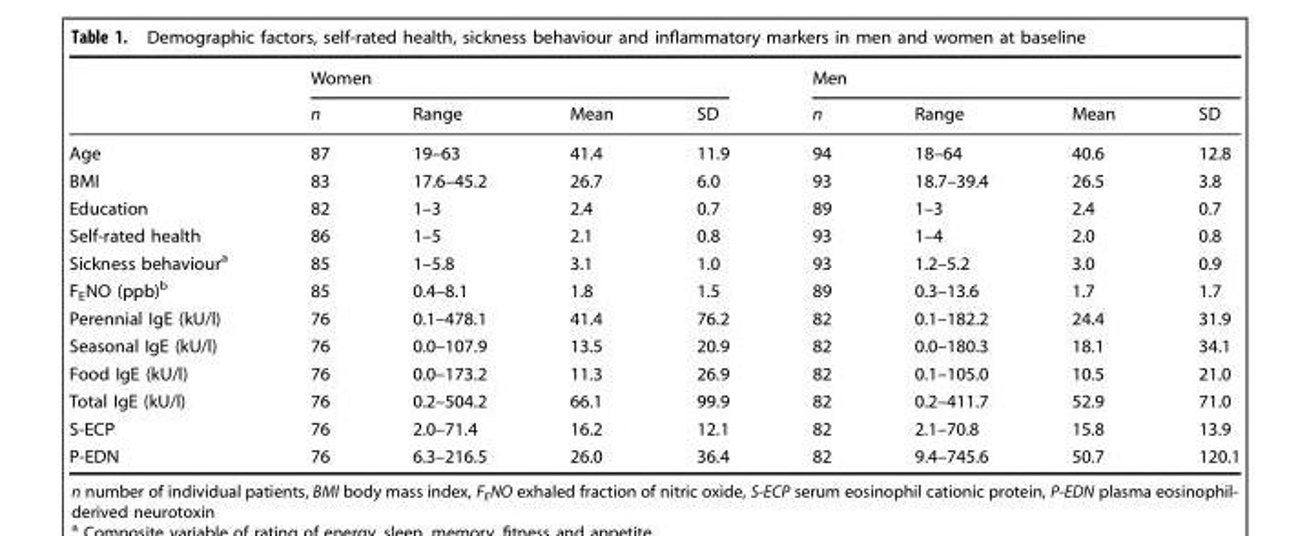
<table><thead><tr><td rowspan="2"></td><td colspan="4">Women</td><td colspan="4">Men</td></tr><tr><td>n</td><td>Range</td><td>Mean</td><td>SD</td><td>n</td><td>Range</td><td>Mean</td><td>SD</td></tr></thead><tbody><tr><td>Age</td><td>87</td><td>19–63</td><td>41.4</td><td>11.9</td><td>94</td><td>18–64</td><td>40.6</td><td>12.8</td></tr><tr><td>BMI</td><td>83</td><td>17.6–45.2</td><td>26.7</td><td>6.0</td><td>93</td><td>18.7–39.4</td><td>26.5</td><td>3.8</td></tr><tr><td>Education</td><td>82</td><td>1–3</td><td>2.4</td><td>0.7</td><td>89</td><td>1–3</td><td>2.4</td><td>0.7</td></tr><tr><td>Self-rated health</td><td>86</td><td>1–5</td><td>2.1</td><td>0.8</td><td>93</td><td>1–4</td><td>2.0</td><td>0.8</td></tr><tr><td>Sickness behaviour<sup>a</sup></td><td>85</td><td>1–5.8</td><td>3.1</td><td>1.0</td><td>93</td><td>1.2–5.2</td><td>3.0</td><td>0.9</td></tr><tr><td>F<sub>E</sub>NO (ppb)<sup>b</sup></td><td>85</td><td>0.4–8.1</td><td>1.8</td><td>1.5</td><td>89</td><td>0.3–13.6</td><td>1.7</td><td>1.7</td></tr><tr><td>Perennial IgE (kU/l)</td><td>76</td><td>0.1–478.1</td><td>41.4</td><td>76.2</td><td>82</td><td>0.1–182.2</td><td>24.4</td><td>31.9</td></tr><tr><td>Seasonal IgE (kU/l)</td><td>76</td><td>0.0–107.9</td><td>13.5</td><td>20.9</td><td>82</td><td>0.0–180.3</td><td>18.1</td><td>34.1</td></tr><tr><td>Food IgE (kU/l)</td><td>76</td><td>0.0–173.2</td><td>11.3</td><td>26.9</td><td>82</td><td>0.1–105.0</td><td>10.5</td><td>21.0</td></tr><tr><td>Total IgE (kU/l)</td><td>76</td><td>0.2–504.2</td><td>66.1</td><td>99.9</td><td>82</td><td>0.2–411.7</td><td>52.9</td><td>71.0</td></tr><tr><td>S-ECP</td><td>76</td><td>2.0–71.4</td><td>16.2</td><td>12.1</td><td>82</td><td>2.1–70.8</td><td>15.8</td><td>13.9</td></tr><tr><td>P-EDN</td><td>76</td><td>6.3–216.5</td><td>26.0</td><td>36.4</td><td>82</td><td>9.4–745.6</td><td>50.7</td><td>120.1</td></tr></tbody></table>